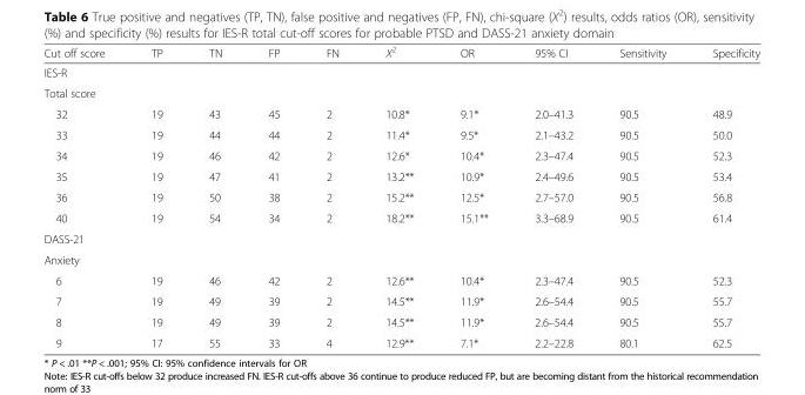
<table><thead><tr><td>Cut off score</td><td>TP</td><td>TN</td><td>FP</td><td>FN</td><td>X<sup>2</sup></td><td>OR</td><td>95% CI</td><td>Sensitivity</td><td>Specificity</td></tr></thead><tbody><tr><td colspan="10">IES-R</td></tr><tr><td colspan="10">Total score</td></tr><tr><td>32</td><td>19</td><td>43</td><td>45</td><td>2</td><td>10.8*</td><td>9.1*</td><td>2.0–41.3</td><td>90.5</td><td>48.9</td></tr><tr><td>33</td><td>19</td><td>44</td><td>44</td><td>2</td><td>11.4*</td><td>9.5*</td><td>2.1–43.2</td><td>90.5</td><td>50.0</td></tr><tr><td>34</td><td>19</td><td>46</td><td>42</td><td>2</td><td>12.6*</td><td>10.4*</td><td>2.3–47.4</td><td>90.5</td><td>52.3</td></tr><tr><td>35</td><td>19</td><td>47</td><td>41</td><td>2</td><td>13.2**</td><td>10.9*</td><td>2.4–49.6</td><td>90.5</td><td>53.4</td></tr><tr><td>36</td><td>19</td><td>50</td><td>38</td><td>2</td><td>15.2**</td><td>12.5*</td><td>2.7–57.0</td><td>90.5</td><td>56.8</td></tr><tr><td>40</td><td>19</td><td>54</td><td>34</td><td>2</td><td>18.2**</td><td>15.1**</td><td>3.3–68.9</td><td>90.5</td><td>61.4</td></tr><tr><td colspan="10">DASS-21</td></tr><tr><td colspan="10">Anxiety</td></tr><tr><td>6</td><td>19</td><td>46</td><td>42</td><td>2</td><td>12.6**</td><td>10.4*</td><td>2.3–47.4</td><td>90.5</td><td>52.3</td></tr><tr><td>7</td><td>19</td><td>49</td><td>39</td><td>2</td><td>14.5**</td><td>11.9*</td><td>2.6–54.4</td><td>90.5</td><td>55.7</td></tr><tr><td>8</td><td>19</td><td>49</td><td>39</td><td>2</td><td>14.5**</td><td>11.9*</td><td>2.6–54.4</td><td>90.5</td><td>55.7</td></tr><tr><td>9</td><td>17</td><td>55</td><td>33</td><td>4</td><td>12.9**</td><td>7.1*</td><td>2.2–22.8</td><td>80.1</td><td>62.5</td></tr></tbody></table>